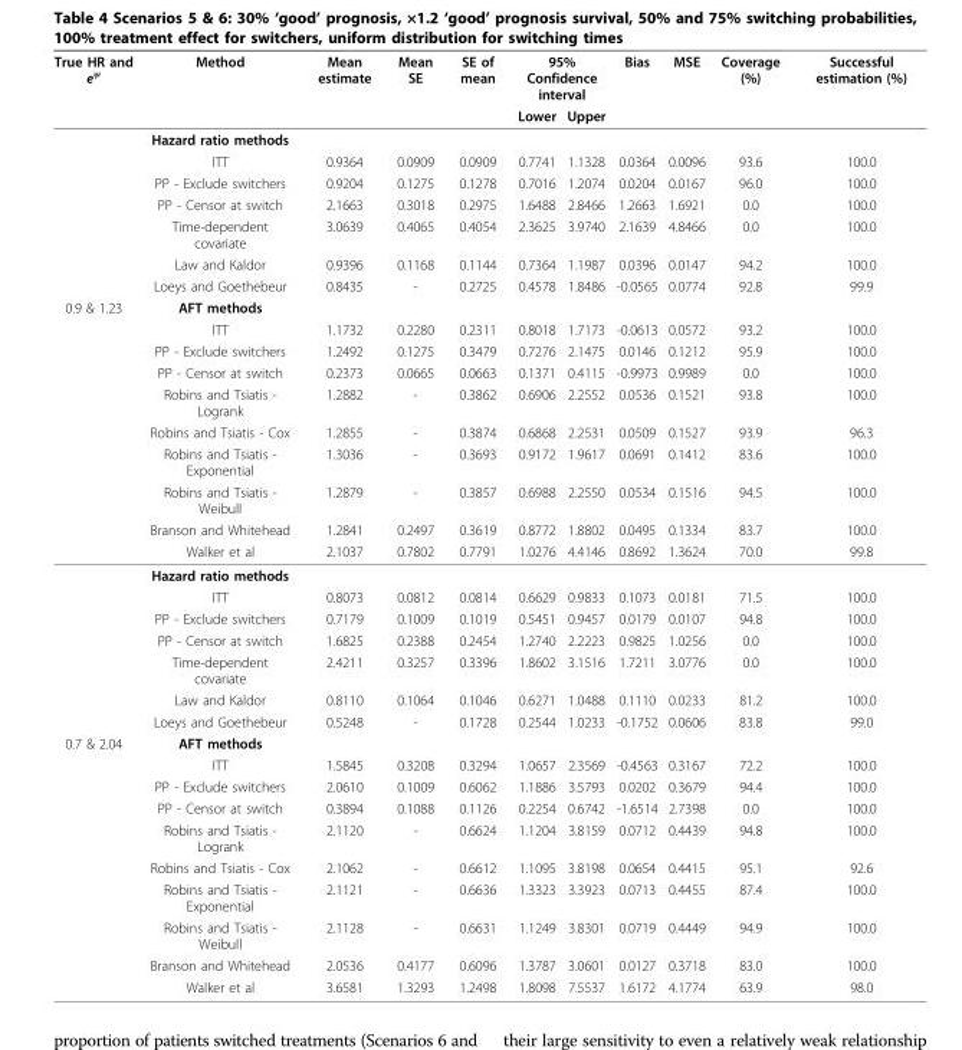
<table><thead><tr><td rowspan="2">True HR and e<sup>ψ</sup></td><td rowspan="2">Method</td><td rowspan="2">Mean estimate</td><td rowspan="2">Mean SE</td><td rowspan="2">SE of mean</td><td colspan="2">95% Confidence interval</td><td rowspan="2">Bias</td><td rowspan="2">MSE</td><td rowspan="2">Coverage (%)</td><td rowspan="2">Successful estimation (%)</td></tr><tr><td>Lower</td><td>Upper</td></tr></thead><tbody><tr><td></td><td>Hazard ratio methods</td><td></td><td></td><td></td><td></td><td></td><td></td><td></td><td></td><td></td></tr><tr><td></td><td>ITT</td><td>0.9364</td><td>0.0909</td><td>0.0909</td><td>0.7741</td><td>1.1328</td><td>0.0364</td><td>0.0096</td><td>93.6</td><td>100.0</td></tr><tr><td></td><td>PP - Exclude switchers</td><td>0.9204</td><td>0.1275</td><td>0.1278</td><td>0.7016</td><td>1.2074</td><td>0.0204</td><td>0.0167</td><td>96.0</td><td>100.0</td></tr><tr><td></td><td>PP - Censor at switch</td><td>2.1663</td><td>0.3018</td><td>0.2975</td><td>1.6488</td><td>2.8466</td><td>1.2663</td><td>1.6921</td><td>0.0</td><td>100.0</td></tr><tr><td></td><td>Time-dependent covariate</td><td>3.0639</td><td>0.4065</td><td>0.4054</td><td>2.3625</td><td>3.9740</td><td>2.1639</td><td>4.8466</td><td>0.0</td><td>100.0</td></tr><tr><td></td><td>Law and Kaldor</td><td>0.9396</td><td>0.1168</td><td>0.1144</td><td>0.7364</td><td>1.1987</td><td>0.0396</td><td>0.0147</td><td>94.2</td><td>100.0</td></tr><tr><td></td><td>Loeys and Goethebeur</td><td>0.8435</td><td>-</td><td>0.2725</td><td>0.4578</td><td>1.8486</td><td>-0.0565</td><td>0.0774</td><td>92.8</td><td>99.9</td></tr><tr><td rowspan="17">0.9 &amp; 1.23</td><td>AFT methods</td><td></td><td></td><td></td><td></td><td></td><td></td><td></td><td></td><td></td></tr><tr><td>ITT</td><td>1.1732</td><td>0.2280</td><td>0.2311</td><td>0.8018</td><td>1.7173</td><td>-0.0613</td><td>0.0572</td><td>93.2</td><td>100.0</td></tr><tr><td>PP - Exclude switchers</td><td>1.2492</td><td>0.1275</td><td>0.3479</td><td>0.7276</td><td>2.1475</td><td>0.0146</td><td>0.1212</td><td>95.9</td><td>100.0</td></tr><tr><td>PP - Censor at switch</td><td>0.2373</td><td>0.0665</td><td>0.0663</td><td>0.1371</td><td>0.4115</td><td>-0.9973</td><td>0.9989</td><td>0.0</td><td>100.0</td></tr><tr><td>Robins and Tsiatis - Logrank</td><td>1.2882</td><td>-</td><td>0.3862</td><td>0.6906</td><td>2.2552</td><td>0.0536</td><td>0.1521</td><td>93.8</td><td>100.0</td></tr><tr><td>Robins and Tsiatis - Cox</td><td>1.2855</td><td>-</td><td>0.3874</td><td>0.6868</td><td>2.2531</td><td>0.0509</td><td>0.1527</td><td>93.9</td><td>96.3</td></tr><tr><td>Robins and Tsiatis - Exponential</td><td>1.3036</td><td>-</td><td>0.3693</td><td>0.9172</td><td>1.9617</td><td>0.0691</td><td>0.1412</td><td>83.6</td><td>100.0</td></tr><tr><td>Robins and Tsiatis - Weibull</td><td>1.2879</td><td>-</td><td>0.3857</td><td>0.6988</td><td>2.2550</td><td>0.0534</td><td>0.1516</td><td>94.5</td><td>100.0</td></tr><tr><td>Branson and Whitehead</td><td>1.2841</td><td>0.2497</td><td>0.3619</td><td>0.8772</td><td>1.8802</td><td>0.0495</td><td>0.1334</td><td>83.7</td><td>100.0</td></tr><tr><td>Walker et al</td><td>2.1037</td><td>0.7802</td><td>0.7791</td><td>1.0276</td><td>4.4146</td><td>0.8692</td><td>1.3624</td><td>70.0</td><td>99.8</td></tr><tr><td>Hazard ratio methods</td><td></td><td></td><td></td><td></td><td></td><td></td><td></td><td></td><td></td></tr><tr><td>ITT</td><td>0.8073</td><td>0.0812</td><td>0.0814</td><td>0.6629</td><td>0.9833</td><td>0.1073</td><td>0.0181</td><td>71.5</td><td>100.0</td></tr><tr><td>PP - Exclude switchers</td><td>0.7179</td><td>0.1009</td><td>0.1019</td><td>0.5451</td><td>0.9457</td><td>0.0179</td><td>0.0107</td><td>94.8</td><td>100.0</td></tr><tr><td>PP - Censor at switch</td><td>1.6825</td><td>0.2388</td><td>0.2454</td><td>1.2740</td><td>2.2223</td><td>0.9825</td><td>1.0256</td><td>0.0</td><td>100.0</td></tr><tr><td>Time-dependent covariate</td><td>2.4211</td><td>0.3257</td><td>0.3396</td><td>1.8602</td><td>3.1516</td><td>1.7211</td><td>3.0776</td><td>0.0</td><td>100.0</td></tr><tr><td>Law and Kaldor</td><td>0.8110</td><td>0.1064</td><td>0.1046</td><td>0.6271</td><td>1.0488</td><td>0.1110</td><td>0.0233</td><td>81.2</td><td>100.0</td></tr><tr><td>Loeys and Goethebeur</td><td>0.5248</td><td>-</td><td>0.1728</td><td>0.2544</td><td>1.0233</td><td>-0.1752</td><td>0.0606</td><td>83.8</td><td>99.0</td></tr><tr><td rowspan="10">0.7 &amp; 2.04</td><td>AFT methods</td><td></td><td></td><td></td><td></td><td></td><td></td><td></td><td></td><td></td></tr><tr><td>ITT</td><td>1.5845</td><td>0.3208</td><td>0.3294</td><td>1.0657</td><td>2.3569</td><td>-0.4563</td><td>0.3167</td><td>72.2</td><td>100.0</td></tr><tr><td>PP - Exclude switchers</td><td>2.0610</td><td>0.1009</td><td>0.6062</td><td>1.1886</td><td>3.5793</td><td>0.0202</td><td>0.3679</td><td>94.4</td><td>100.0</td></tr><tr><td>PP - Censor at switch</td><td>0.3894</td><td>0.1088</td><td>0.1126</td><td>0.2254</td><td>0.6742</td><td>-1.6514</td><td>2.7398</td><td>0.0</td><td>100.0</td></tr><tr><td>Robins and Tsiatis - Logrank</td><td>2.1120</td><td>-</td><td>0.6624</td><td>1.1204</td><td>3.8159</td><td>0.0712</td><td>0.4439</td><td>94.8</td><td>100.0</td></tr><tr><td>Robins and Tsiatis - Cox</td><td>2.1062</td><td>-</td><td>0.6612</td><td>1.1095</td><td>3.8198</td><td>0.0654</td><td>0.4415</td><td>95.1</td><td>92.6</td></tr><tr><td>Robins and Tsiatis - Exponential</td><td>2.1121</td><td>-</td><td>0.6636</td><td>1.3323</td><td>3.3923</td><td>0.0713</td><td>0.4455</td><td>87.4</td><td>100.0</td></tr><tr><td>Robins and Tsiatis - Weibull</td><td>2.1128</td><td>-</td><td>0.6631</td><td>1.1249</td><td>3.8301</td><td>0.0719</td><td>0.4449</td><td>94.9</td><td>100.0</td></tr><tr><td>Branson and Whitehead</td><td>2.0536</td><td>0.4177</td><td>0.6096</td><td>1.3787</td><td>3.0601</td><td>0.0127</td><td>0.3718</td><td>83.0</td><td>100.0</td></tr><tr><td>Walker et al</td><td>3.6581</td><td>1.3293</td><td>1.2498</td><td>1.8098</td><td>7.5537</td><td>1.6172</td><td>4.1774</td><td>63.9</td><td>98.0</td></tr></tbody></table>